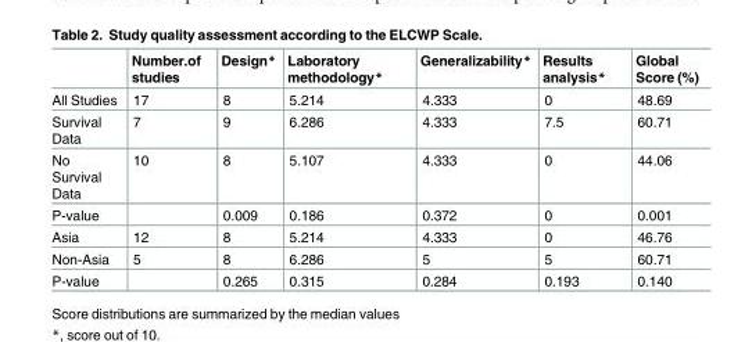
<table><thead><tr><td></td><td>Number.of studies</td><td>Design*</td><td>Laboratory methodology*</td><td>Generalizability*</td><td>Results analysis*</td><td>Global Score (%)</td></tr></thead><tbody><tr><td>All Studies</td><td>17</td><td>8</td><td>5.214</td><td>4.333</td><td>0</td><td>48.69</td></tr><tr><td>Survival Data</td><td>7</td><td>9</td><td>6.286</td><td>4.333</td><td>7.5</td><td>60.71</td></tr><tr><td>No Survival Data</td><td>10</td><td>8</td><td>5.107</td><td>4.333</td><td>0</td><td>44.06</td></tr><tr><td>P-value</td><td></td><td>0.009</td><td>0.186</td><td>0.372</td><td>0</td><td>0.001</td></tr><tr><td>Asia</td><td>12</td><td>8</td><td>5.214</td><td>4.333</td><td>0</td><td>46.76</td></tr><tr><td>Non-Asia</td><td>5</td><td>8</td><td>6.286</td><td>5</td><td>5</td><td>60.71</td></tr><tr><td>P-value</td><td></td><td>0.265</td><td>0.315</td><td>0.284</td><td>0.193</td><td>0.140</td></tr></tbody></table>